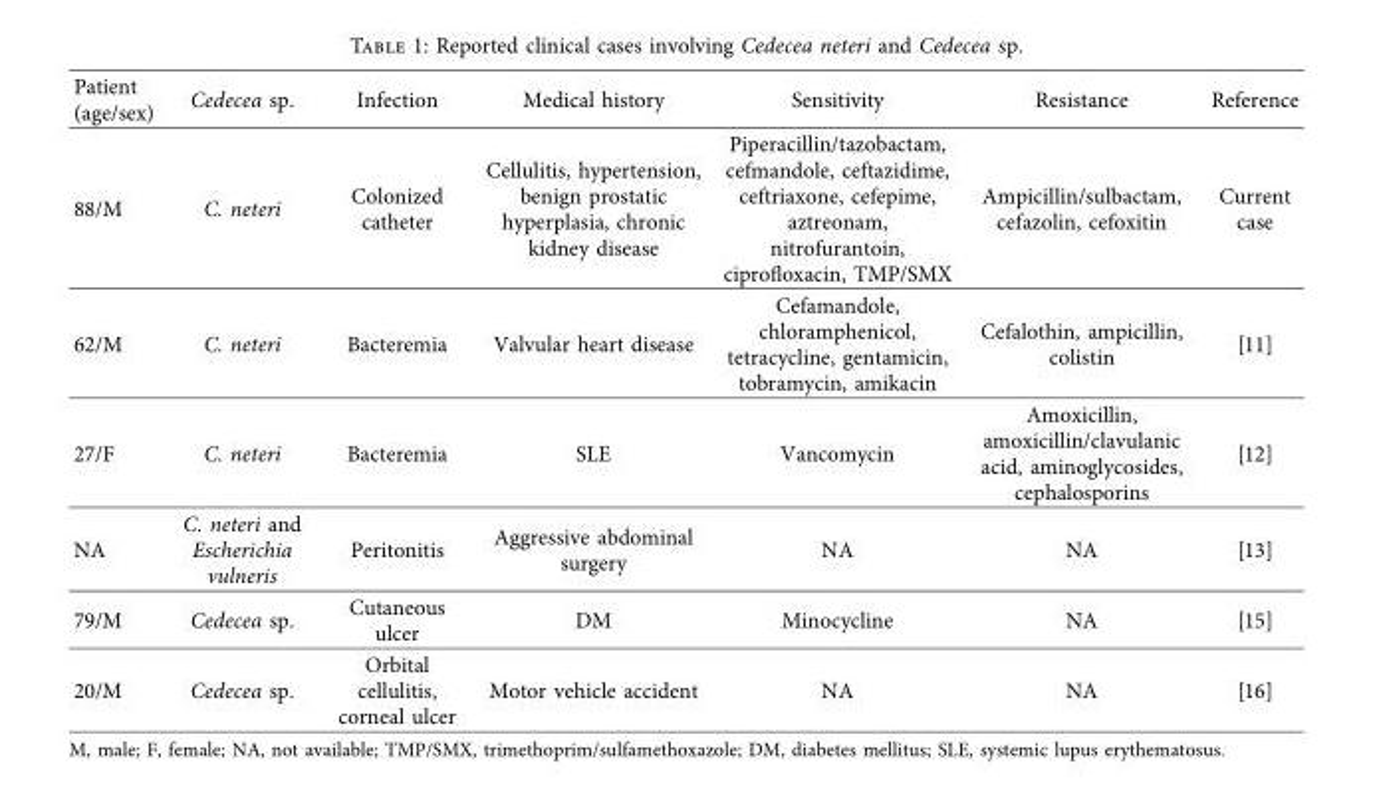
<table><thead><tr><td>Patient (age/sex)</td><td>Cedecea sp.</td><td>Infection</td><td>Medical history</td><td>Sensitivity</td><td>Resistance</td><td>Reference</td></tr></thead><tbody><tr><td>88/M</td><td>C. neteri</td><td>Colonized catheter</td><td>Cellulitis, hypertension, benign prostatic hyperplasia, chronic kidney disease</td><td>Piperacillin/tazobactam, cefmandole, ceftazidime, ceftriaxone, cefepime, aztreonam, nitrofurantoin, ciprofloxacin, TMP/SMX</td><td>Ampicillin/sulbactam, cefazolin, cefoxitin</td><td>Current case</td></tr><tr><td>62/M</td><td>C. neteri</td><td>Bacteremia</td><td>Valvular heart disease</td><td>Cefamandole, chloramphenicol, tetracycline, gentamicin, tobramycin, amikacin</td><td>Cefalothin, ampicillin, colistin</td><td>[11]</td></tr><tr><td>27/F</td><td>C. neteri</td><td>Bacteremia</td><td>SLE</td><td>Vancomycin</td><td>Amoxicillin, amoxicillin/clavulanic acid, aminoglycosides, cephalosporins</td><td>[12]</td></tr><tr><td>NA</td><td>C. neteri and Escherichia vulneris</td><td>Peritonitis</td><td>Aggressive abdominal surgery</td><td>NA</td><td>NA</td><td>[13]</td></tr><tr><td>79/M</td><td>Cedecea sp.</td><td>Cutaneous ulcer</td><td>DM</td><td>Minocycline</td><td>NA</td><td>[15]</td></tr><tr><td>20/M</td><td>Cedecea sp.</td><td>Orbital cellulitis, corneal ulcer</td><td>Motor vehicle accident</td><td>NA</td><td>NA</td><td>[16]</td></tr></tbody></table>